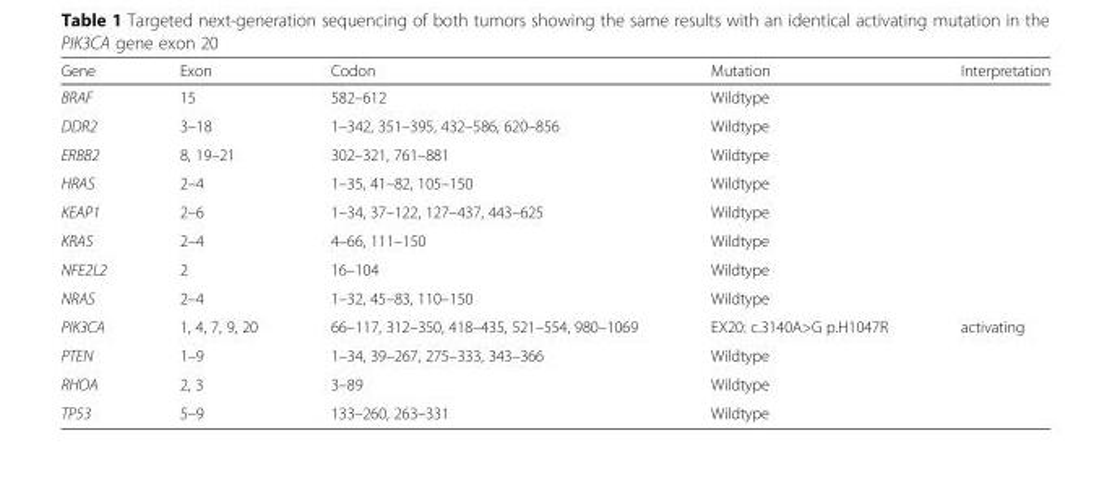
<table><thead><tr><td>Gene</td><td>Exon</td><td>Codon</td><td>Mutation</td><td>Interpretation</td></tr></thead><tbody><tr><td>BRAF</td><td>15</td><td>582–612</td><td>Wildtype</td><td></td></tr><tr><td>DDR2</td><td>3–18</td><td>1–342, 351–395, 432–586, 620–856</td><td>Wildtype</td><td></td></tr><tr><td>ERBB2</td><td>8, 19–21</td><td>302–321, 761–881</td><td>Wildtype</td><td></td></tr><tr><td>HRAS</td><td>2–4</td><td>1–35, 41–82, 105–150</td><td>Wildtype</td><td></td></tr><tr><td>KEAP1</td><td>2–6</td><td>1–34, 37–122, 127–437, 443–625</td><td>Wildtype</td><td></td></tr><tr><td>KRAS</td><td>2–4</td><td>4–66, 111–150</td><td>Wildtype</td><td></td></tr><tr><td>NFE2L2</td><td>2</td><td>16–104</td><td>Wildtype</td><td></td></tr><tr><td>NRAS</td><td>2–4</td><td>1–32, 45–83, 110–150</td><td>Wildtype</td><td></td></tr><tr><td>PIK3CA</td><td>1, 4, 7, 9, 20</td><td>66–117, 312–350, 418–435, 521–554, 980–1069</td><td>EX20: c.3140A&gt;G p.H1047R</td><td>activating</td></tr><tr><td>PTEN</td><td>1–9</td><td>1–34, 39–267, 275–333, 343–366</td><td>Wildtype</td><td></td></tr><tr><td>RHOA</td><td>2, 3</td><td>3–89</td><td>Wildtype</td><td></td></tr><tr><td>TP53</td><td>5–9</td><td>133–260, 263–331</td><td>Wildtype</td><td></td></tr></tbody></table>